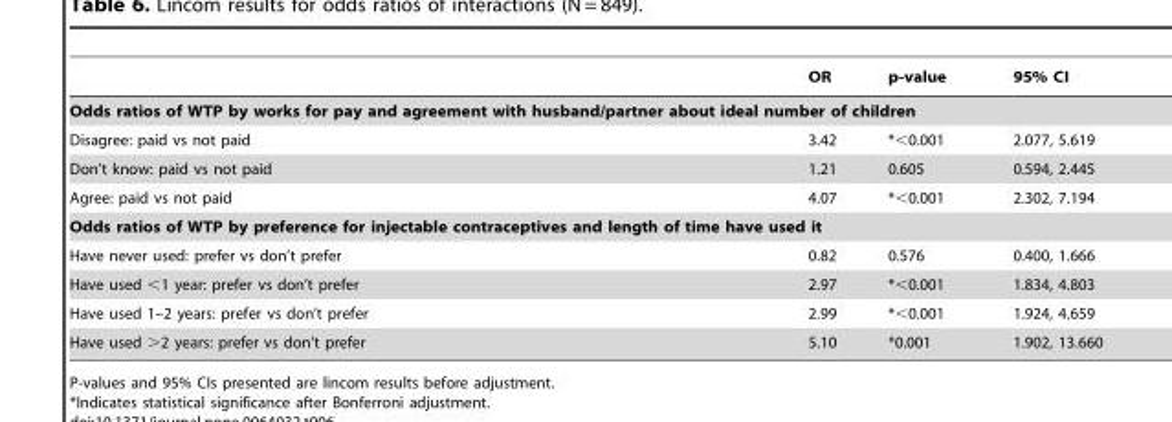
<table><thead><tr><td></td><td>OR</td><td>p-value</td><td>95% CI</td></tr></thead><tbody><tr><td colspan="4">Odds ratios of WTP by works for pay and agreement with husband/partner about ideal number of children</td></tr><tr><td>Disagree: paid vs not paid</td><td>3.42</td><td>*&lt;0.001</td><td>2.077, 5.619</td></tr><tr><td>Don’t know: paid vs not paid</td><td>1.21</td><td>0.605</td><td>0.594, 2.445</td></tr><tr><td>Agree: paid vs not paid</td><td>4.07</td><td>*&lt;0.001</td><td>2.302, 7.194</td></tr><tr><td colspan="4">Odds ratios of WTP by preference for injectable contraceptives and length of time have used it</td></tr><tr><td>Have never used: prefer vs don’t prefer</td><td>0.82</td><td>0.576</td><td>0.400, 1.666</td></tr><tr><td>Have used &lt;1 year: prefer vs don’t prefer</td><td>2.97</td><td>*&lt;0.001</td><td>1.834, 4.803</td></tr><tr><td>Have used 1–2 years: prefer vs don’t prefer</td><td>2.99</td><td>*&lt;0.001</td><td>1.924, 4.659</td></tr><tr><td>Have used &gt;2 years: prefer vs don’t prefer</td><td>5.10</td><td>*0.001</td><td>1.902, 13.660</td></tr></tbody></table>